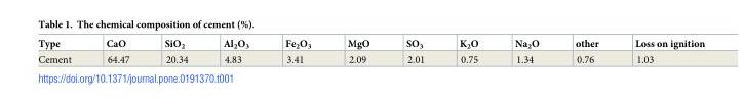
<table><thead><tr><td>Type</td><td>CaO</td><td>SiO<sub>2</sub></td><td>Al<sub>2</sub>O<sub>3</sub></td><td>Fe<sub>2</sub>O<sub>3</sub></td><td>MgO</td><td>SO<sub>3</sub></td><td>K<sub>2</sub>O</td><td>Na<sub>2</sub>O</td><td>other</td><td>Loss on ignition</td></tr></thead><tbody><tr><td>Cement</td><td>64.47</td><td>20.34</td><td>4.83</td><td>3.41</td><td>2.09</td><td>2.01</td><td>0.75</td><td>1.34</td><td>0.76</td><td>1.03</td></tr></tbody></table>